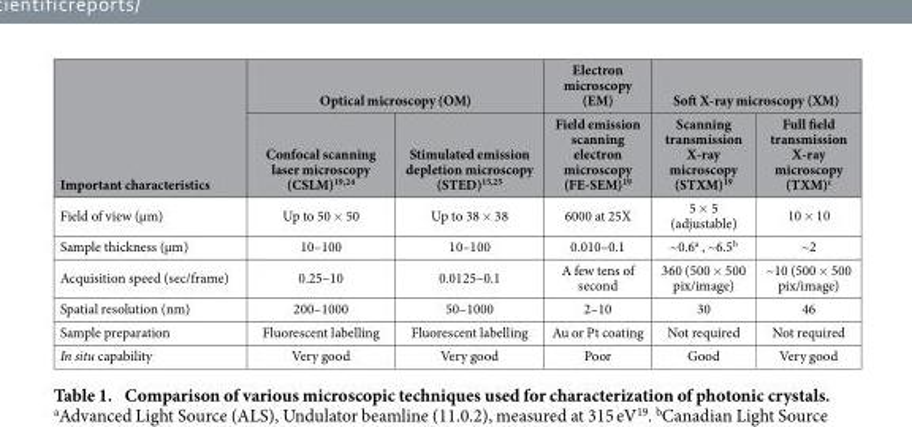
<table><thead><tr><td rowspan="2">Important characteristics</td><td colspan="2">Optical microscopy (OM)</td><td rowspan="2">Electron microscopy (EM) Field emission scanning electron microscopy (FE-SEM)<sup>19</sup></td><td colspan="2">Soft X-ray microscopy (XM)</td></tr><tr><td>Confocal scanning laser microscopy (CSLM)<sup>19</sup>,<sup>24</sup></td><td>Stimulated emission depletion microscopy (STED)<sup>15</sup>,<sup>25</sup></td><td>Scanning transmission X-ray microscopy (STXM)<sup>19</sup></td><td>Full field transmission X-ray microscopy (TXM)<sup>c</sup></td></tr></thead><tbody><tr><td>Field of view (μm)</td><td>Up to 50 × 50</td><td>Up to 38 × 38</td><td>6000 at 25X</td><td>5 × 5 (adjustable)</td><td>10 × 10</td></tr><tr><td>Sample thickness (μm)</td><td>10–100</td><td>10–100</td><td>0.010–0.1</td><td>~0.6<sup>a</sup> , ~6.5<sup>b</sup></td><td>~2</td></tr><tr><td>Acquisition speed (sec/frame)</td><td>0.25–10</td><td>0.0125–0.1</td><td>A few tens of second</td><td>360 (500 × 500 pix/image)</td><td>~10 (500 × 500 pix/image)</td></tr><tr><td>Spatial resolution (nm)</td><td>200–1000</td><td>50–1000</td><td>2–10</td><td>30</td><td>46</td></tr><tr><td>Sample preparation</td><td>Fluorescent labelling</td><td>Fluorescent labelling</td><td>Au or Pt coating</td><td>Not required</td><td>Not required</td></tr><tr><td>In situ capability</td><td>Very good</td><td>Very good</td><td>Poor</td><td>Good</td><td>Very good</td></tr></tbody></table>